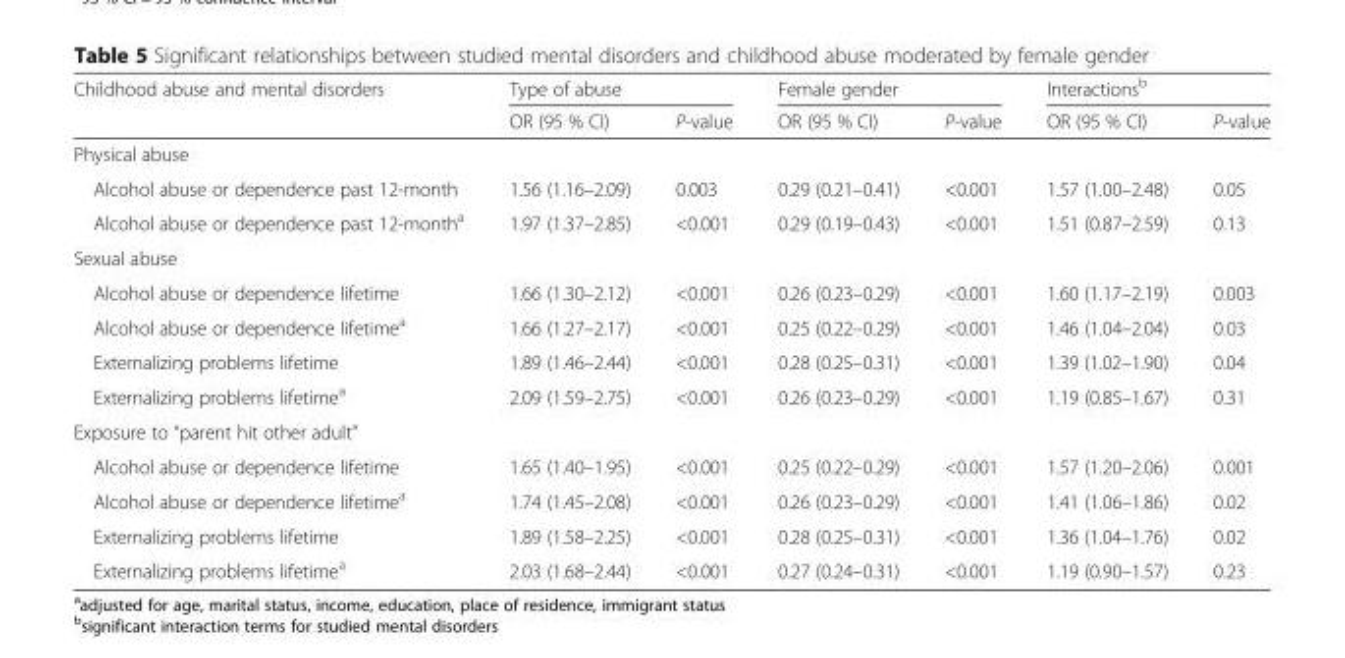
<table><thead><tr><td rowspan="2">Childhood abuse and mental disorders</td><td colspan="2">Type of abuse</td><td colspan="2">Female gender</td><td colspan="2">Interactions<sup>b</sup></td></tr><tr><td>OR (95 % CI)</td><td>P-value</td><td>OR (95 % CI)</td><td>P-value</td><td>OR (95 % CI)</td><td>P-value</td></tr></thead><tbody><tr><td colspan="7">Physical abuse</td></tr><tr><td>Alcohol abuse or dependence past 12-month</td><td>1.56 (1.16–2.09)</td><td>0.003</td><td>0.29 (0.21–0.41)</td><td>&lt;0.001</td><td>1.57 (1.00–2.48)</td><td>0.05</td></tr><tr><td>Alcohol abuse or dependence past 12-month<sup>a</sup></td><td>1.97 (1.37–2.85)</td><td>&lt;0.001</td><td>0.29 (0.19–0.43)</td><td>&lt;0.001</td><td>1.51 (0.87–2.59)</td><td>0.13</td></tr><tr><td colspan="7">Sexual abuse</td></tr><tr><td>Alcohol abuse or dependence lifetime</td><td>1.66 (1.30–2.12)</td><td>&lt;0.001</td><td>0.26 (0.23–0.29)</td><td>&lt;0.001</td><td>1.60 (1.17–2.19)</td><td>0.003</td></tr><tr><td>Alcohol abuse or dependence lifetime<sup>a</sup></td><td>1.66 (1.27–2.17)</td><td>&lt;0.001</td><td>0.25 (0.22–0.29)</td><td>&lt;0.001</td><td>1.46 (1.04–2.04)</td><td>0.03</td></tr><tr><td>Externalizing problems lifetime</td><td>1.89 (1.46–2.44)</td><td>&lt;0.001</td><td>0.28 (0.25–0.31)</td><td>&lt;0.001</td><td>1.39 (1.02–1.90)</td><td>0.04</td></tr><tr><td>Externalizing problems lifetime<sup>a</sup></td><td>2.09 (1.59–2.75)</td><td>&lt;0.001</td><td>0.26 (0.23–0.29)</td><td>&lt;0.001</td><td>1.19 (0.85–1.67)</td><td>0.31</td></tr><tr><td colspan="7">Exposure to “parent hit other adult”</td></tr><tr><td>Alcohol abuse or dependence lifetime</td><td>1.65 (1.40–1.95)</td><td>&lt;0.001</td><td>0.25 (0.22–0.29)</td><td>&lt;0.001</td><td>1.57 (1.20–2.06)</td><td>0.001</td></tr><tr><td>Alcohol abuse or dependence lifetime<sup>a</sup></td><td>1.74 (1.45–2.08)</td><td>&lt;0.001</td><td>0.26 (0.23–0.29)</td><td>&lt;0.001</td><td>1.41 (1.06–1.86)</td><td>0.02</td></tr><tr><td>Externalizing problems lifetime</td><td>1.89 (1.58–2.25)</td><td>&lt;0.001</td><td>0.28 (0.25–0.31)</td><td>&lt;0.001</td><td>1.36 (1.04–1.76)</td><td>0.02</td></tr><tr><td>Externalizing problems lifetime<sup>a</sup></td><td>2.03 (1.68–2.44)</td><td>&lt;0.001</td><td>0.27 (0.24–0.31)</td><td>&lt;0.001</td><td>1.19 (0.90–1.57)</td><td>0.23</td></tr></tbody></table>